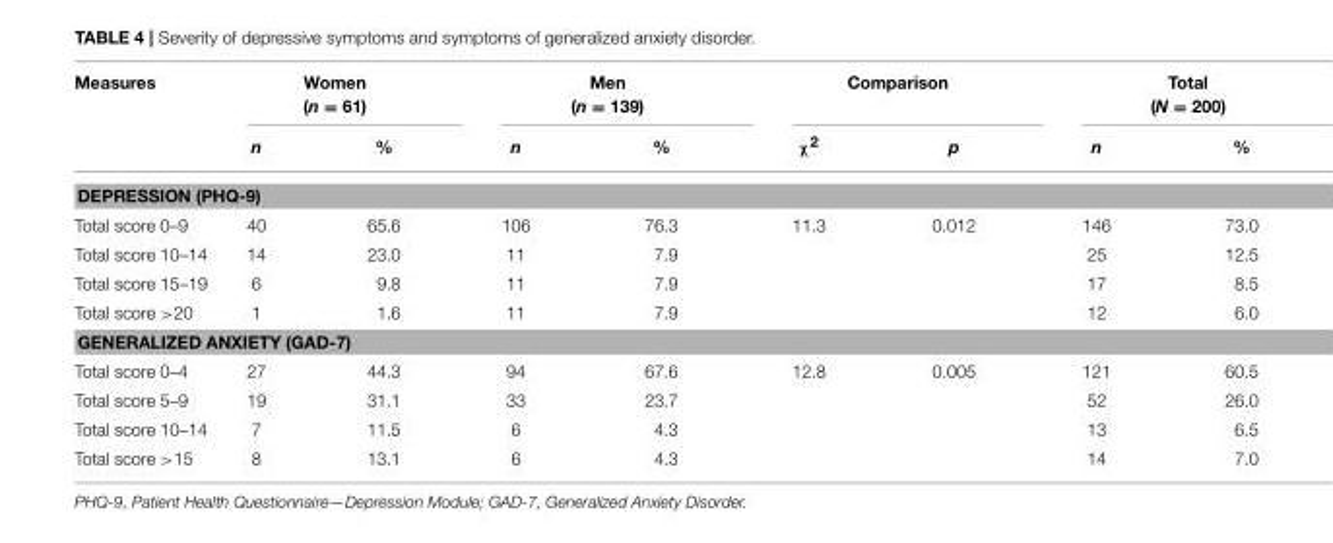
<table><thead><tr><td rowspan="2">Measures</td><td colspan="2">Women (n = 61)</td><td colspan="2">Men (n = 139)</td><td colspan="2">Comparison</td><td colspan="2">Total (N = 200)</td></tr><tr><td>n</td><td>%</td><td>n</td><td>%</td><td>χ<sup>2</sup></td><td>p</td><td>n</td><td>%</td></tr></thead><tbody><tr><td colspan="9">DEPRESSION (PHQ-9)</td></tr><tr><td>Total score 0–9</td><td>40</td><td>65.6</td><td>106</td><td>76.3</td><td>11.3</td><td>0.012</td><td>146</td><td>73.0</td></tr><tr><td>Total score 10–14</td><td>14</td><td>23.0</td><td>11</td><td>7.9</td><td></td><td></td><td>25</td><td>12.5</td></tr><tr><td>Total score 15–19</td><td>6</td><td>9.8</td><td>11</td><td>7.9</td><td></td><td></td><td>17</td><td>8.5</td></tr><tr><td>Total score &gt;20</td><td>1</td><td>1.6</td><td>11</td><td>7.9</td><td></td><td></td><td>12</td><td>6.0</td></tr><tr><td colspan="9">GENERALIZED ANXIETY (GAD-7)</td></tr><tr><td>Total score 0–4</td><td>27</td><td>44.3</td><td>94</td><td>67.6</td><td>12.8</td><td>0.005</td><td>121</td><td>60.5</td></tr><tr><td>Total score 5–9</td><td>19</td><td>31.1</td><td>33</td><td>23.7</td><td></td><td></td><td>52</td><td>26.0</td></tr><tr><td>Total score 10–14</td><td>7</td><td>11.5</td><td>6</td><td>4.3</td><td></td><td></td><td>13</td><td>6.5</td></tr><tr><td>Total score &gt;15</td><td>8</td><td>13.1</td><td>6</td><td>4.3</td><td></td><td></td><td>14</td><td>7.0</td></tr></tbody></table>